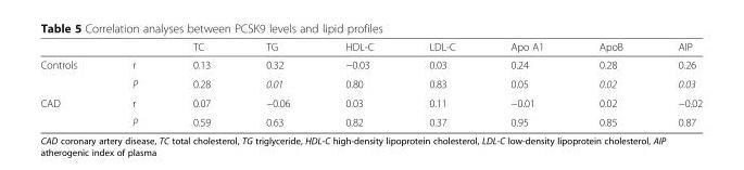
<table><thead><tr><td></td><td></td><td>TC</td><td>TG</td><td>HDL-C</td><td>LDL-C</td><td>Apo A1</td><td>ApoB</td><td>AIP</td></tr></thead><tbody><tr><td rowspan="2">Controls</td><td>r</td><td>0.13</td><td>0.32</td><td>−0.03</td><td>0.03</td><td>0.24</td><td>0.28</td><td>0.26</td></tr><tr><td>P</td><td>0.28</td><td>0.01</td><td>0.80</td><td>0.83</td><td>0.05</td><td>0.02</td><td>0.03</td></tr><tr><td rowspan="2">CAD</td><td>r</td><td>0.07</td><td>−0.06</td><td>0.03</td><td>0.11</td><td>−0.01</td><td>0.02</td><td>−0.02</td></tr><tr><td>P</td><td>0.59</td><td>0.63</td><td>0.82</td><td>0.37</td><td>0.95</td><td>0.85</td><td>0.87</td></tr></tbody></table>